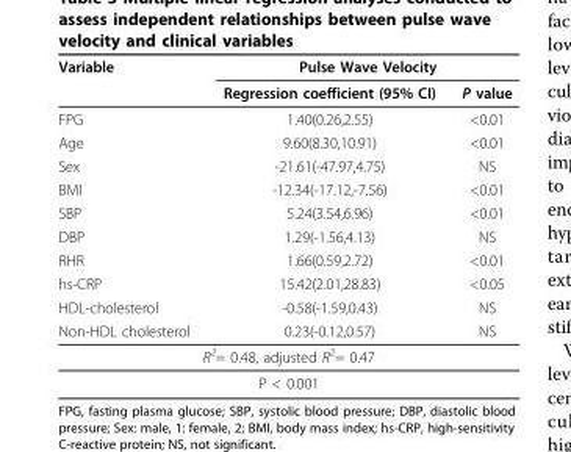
<table><thead><tr><td rowspan="2">Variable</td><td colspan="2">Pulse Wave Velocity</td></tr><tr><td>Regression coefficient (95% CI)</td><td>P value</td></tr></thead><tbody><tr><td>FPG</td><td>1.40(0.26,2.55)</td><td>&lt;0.01</td></tr><tr><td>Age</td><td>9.60(8.30,10.91)</td><td>&lt;0.01</td></tr><tr><td>Sex</td><td>-21.61(-47.97,4.75)</td><td>NS</td></tr><tr><td>BMI</td><td>-12.34(-17.12,-7.56)</td><td>&lt;0.01</td></tr><tr><td>SBP</td><td>5.24(3.54,6.96)</td><td>&lt;0.01</td></tr><tr><td>DBP</td><td>1.29(-1.56,4.13)</td><td>NS</td></tr><tr><td>RHR</td><td>1.66(0.59,2.72)</td><td>&lt;0.01</td></tr><tr><td>hs-CRP</td><td>15.42(2.01,28.83)</td><td>&lt;0.05</td></tr><tr><td>HDL-cholesterol</td><td>-0.58(-1.59,0.43)</td><td>NS</td></tr><tr><td>Non-HDL cholesterol</td><td>0.23(-0.12,0.57)</td><td>NS</td></tr><tr><td colspan="3">R<sup>2</sup>= 0.48, adjusted R<sup>2</sup>= 0.47</td></tr><tr><td colspan="3">P &lt; 0.001</td></tr></tbody></table>